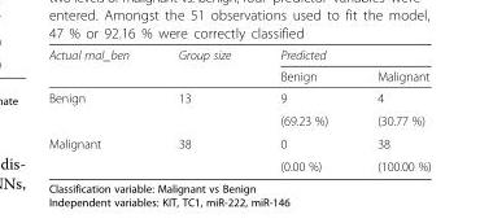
<table><thead><tr><td rowspan="2">Actual mal_ben</td><td rowspan="2">Group size</td><td colspan="2">Predicted</td></tr><tr><td>Benign</td><td>Malignant</td></tr></thead><tbody><tr><td rowspan="2">Benign</td><td rowspan="2">13</td><td>9</td><td>4</td></tr><tr><td>(69.23 %)</td><td>(30.77 %)</td></tr><tr><td rowspan="2">Malignant</td><td rowspan="2">38</td><td>0</td><td>38</td></tr><tr><td>(0.00 %)</td><td>(100.00 %)</td></tr></tbody></table>